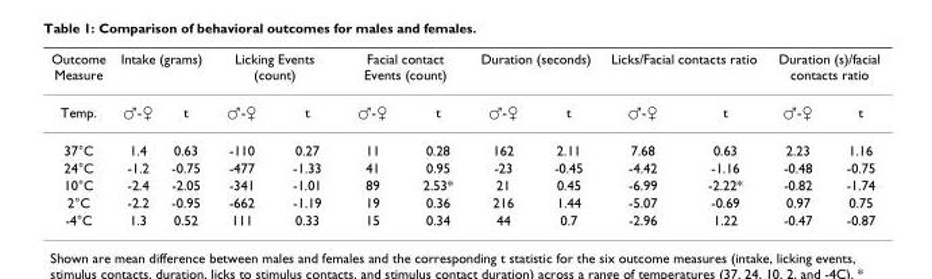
<table><thead><tr><td rowspan="2">Outcome Measure Temp.</td><td colspan="2">Intake (grams)</td><td colspan="2">Licking Events (count)</td><td colspan="2">Facial contact Events (count)</td><td colspan="2">Duration (seconds)</td><td colspan="2">Licks/Facial contacts ratio</td><td colspan="2">Duration (s)/facial contacts ratio</td></tr><tr><td>♂-♀</td><td>t</td><td>♂-♀</td><td>t</td><td>♂-♀</td><td>t</td><td>♂-♀</td><td>t</td><td>♂-♀</td><td>t</td><td>♂-♀</td><td>t</td></tr></thead><tbody><tr><td>37°C</td><td>1.4</td><td>0.63</td><td>-110</td><td>0.27</td><td>11</td><td>0.28</td><td>162</td><td>2.11</td><td>7.68</td><td>0.63</td><td>2.23</td><td>1.16</td></tr><tr><td>24°C</td><td>-1.2</td><td>-0.75</td><td>-477</td><td>-1.33</td><td>41</td><td>0.95</td><td>-23</td><td>-0.45</td><td>-4.42</td><td>-1.16</td><td>-0.48</td><td>-0.75</td></tr><tr><td>10°C</td><td>-2.4</td><td>-2.05</td><td>-341</td><td>-1.01</td><td>89</td><td>2.53*</td><td>21</td><td>0.45</td><td>-6.99</td><td>-2.22*</td><td>-0.82</td><td>-1.74</td></tr><tr><td>2°C</td><td>-2.2</td><td>-0.95</td><td>-662</td><td>-1.19</td><td>19</td><td>0.36</td><td>216</td><td>1.44</td><td>-5.07</td><td>-0.69</td><td>0.97</td><td>0.75</td></tr><tr><td>-4°C</td><td>1.3</td><td>0.52</td><td>111</td><td>0.33</td><td>15</td><td>0.34</td><td>44</td><td>0.7</td><td>-2.96</td><td>1.22</td><td>-0.47</td><td>-0.87</td></tr></tbody></table>